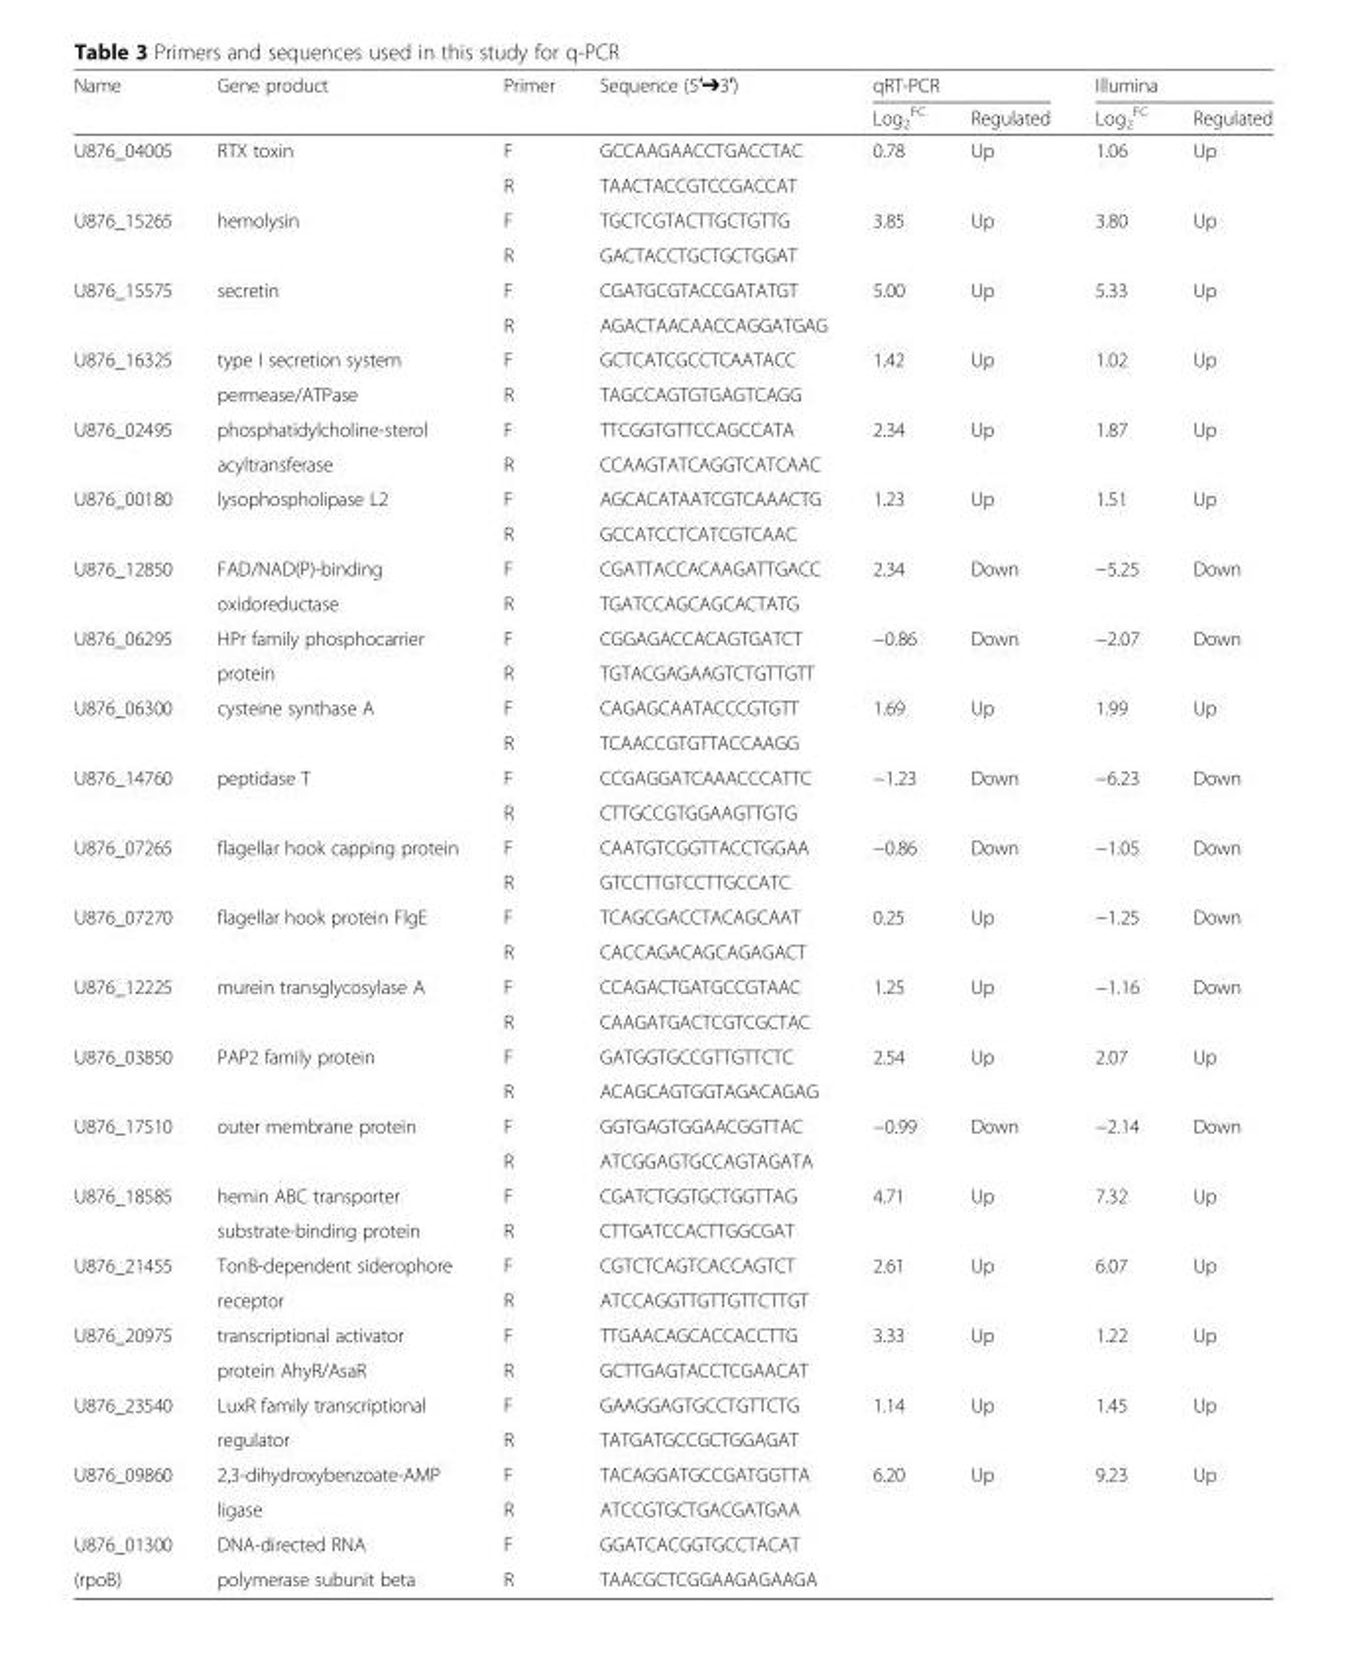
<table><thead><tr><td rowspan="2">Name</td><td rowspan="2">Gene product</td><td rowspan="2">Primer</td><td rowspan="2">Sequence (5′➔3′)</td><td colspan="2">qRT-PCR</td><td colspan="2">Illumina</td></tr><tr><td>Log<sub>2</sub> <sup>FC</sup></td><td>Regulated</td><td>Log<sub>2</sub> <sup>FC</sup></td><td>Regulated</td></tr></thead><tbody><tr><td rowspan="2">U876_04005</td><td rowspan="2">RTX toxin</td><td>F</td><td>GCCAAGAACCTGACCTAC</td><td>0.78</td><td>Up</td><td>1.06</td><td>Up</td></tr><tr><td>R</td><td>TAACTACCGTCCGACCAT</td><td></td><td></td><td></td><td></td></tr><tr><td rowspan="2">U876_15265</td><td rowspan="2">hemolysin</td><td>F</td><td>TGCTCGTACTTGCTGTTG</td><td>3.85</td><td>Up</td><td>3.80</td><td>Up</td></tr><tr><td>R</td><td>GACTACCTGCTGCTGGAT</td><td></td><td></td><td></td><td></td></tr><tr><td rowspan="2">U876_15575</td><td rowspan="2">secretin</td><td>F</td><td>CGATGCGTACCGATATGT</td><td>5.00</td><td>Up</td><td>5.33</td><td>Up</td></tr><tr><td>R</td><td>AGACTAACAACCAGGATGAG</td><td></td><td></td><td></td><td></td></tr><tr><td rowspan="2">U876_16325</td><td>type I secretion system</td><td>F</td><td>GCTCATCGCCTCAATACC</td><td>1.42</td><td>Up</td><td>1.02</td><td>Up</td></tr><tr><td>permease/ATPase</td><td>R</td><td>TAGCCAGTGTGAGTCAGG</td><td></td><td></td><td></td><td></td></tr><tr><td rowspan="2">U876_02495</td><td>phosphatidylcholine-sterol</td><td>F</td><td>TTCGGTGTTCCAGCCATA</td><td>2.34</td><td>Up</td><td>1.87</td><td>Up</td></tr><tr><td>acyltransferase</td><td>R</td><td>CCAAGTATCAGGTCATCAAC</td><td></td><td></td><td></td><td></td></tr><tr><td rowspan="2">U876_00180</td><td rowspan="2">lysophospholipase L2</td><td>F</td><td>AGCACATAATCGTCAAACTG</td><td>1.23</td><td>Up</td><td>1.51</td><td>Up</td></tr><tr><td>R</td><td>GCCATCCTCATCGTCAAC</td><td></td><td></td><td></td><td></td></tr><tr><td rowspan="2">U876_12850</td><td>FAD/NAD(P)-binding</td><td>F</td><td>CGATTACCACAAGATTGACC</td><td>2.34</td><td>Down</td><td>−5.25</td><td>Down</td></tr><tr><td>oxidoreductase</td><td>R</td><td>TGATCCAGCAGCACTATG</td><td></td><td></td><td></td><td></td></tr><tr><td rowspan="2">U876_06295</td><td>HPr family phosphocarrier</td><td>F</td><td>CGGAGACCACAGTGATCT</td><td>−0.86</td><td>Down</td><td>−2.07</td><td>Down</td></tr><tr><td>protein</td><td>R</td><td>TGTACGAGAAGTCTGTTGTT</td><td></td><td></td><td></td><td></td></tr><tr><td rowspan="2">U876_06300</td><td rowspan="2">cysteine synthase A</td><td>F</td><td>CAGAGCAATACCCGTGTT</td><td>1.69</td><td>Up</td><td>1.99</td><td>Up</td></tr><tr><td>R</td><td>TCAACCGTGTTACCAAGG</td><td></td><td></td><td></td><td></td></tr><tr><td rowspan="2">U876_14760</td><td rowspan="2">peptidase T</td><td>F</td><td>CCGAGGATCAAACCCATTC</td><td>−1.23</td><td>Down</td><td>−6.23</td><td>Down</td></tr><tr><td>R</td><td>CTTGCCGTGGAAGTTGTG</td><td></td><td></td><td></td><td></td></tr><tr><td rowspan="2">U876_07265</td><td rowspan="2">flagellar hook capping protein</td><td>F</td><td>CAATGTCGGTTACCTGGAA</td><td>−0.86</td><td>Down</td><td>−1.05</td><td>Down</td></tr><tr><td>R</td><td>GTCCTTGTCCTTGCCATC</td><td></td><td></td><td></td><td></td></tr><tr><td rowspan="2">U876_07270</td><td rowspan="2">flagellar hook protein FlgE</td><td>F</td><td>TCAGCGACCTACAGCAAT</td><td>0.25</td><td>Up</td><td>−1.25</td><td>Down</td></tr><tr><td>R</td><td>CACCAGACAGCAGAGACT</td><td></td><td></td><td></td><td></td></tr><tr><td rowspan="2">U876_12225</td><td rowspan="2">murein transglycosylase A</td><td>F</td><td>CCAGACTGATGCCGTAAC</td><td>1.25</td><td>Up</td><td>−1.16</td><td>Down</td></tr><tr><td>R</td><td>CAAGATGACTCGTCGCTAC</td><td></td><td></td><td></td><td></td></tr><tr><td rowspan="2">U876_03850</td><td rowspan="2">PAP2 family protein</td><td>F</td><td>GATGGTGCCGTTGTTCTC</td><td>2.54</td><td>Up</td><td>2.07</td><td>Up</td></tr><tr><td>R</td><td>ACAGCAGTGGTAGACAGAG</td><td></td><td></td><td></td><td></td></tr><tr><td rowspan="2">U876_17510</td><td rowspan="2">outer membrane protein</td><td>F</td><td>GGTGAGTGGAACGGTTAC</td><td>−0.99</td><td>Down</td><td>−2.14</td><td>Down</td></tr><tr><td>R</td><td>ATCGGAGTGCCAGTAGATA</td><td></td><td></td><td></td><td></td></tr><tr><td rowspan="2">U876_18585</td><td>hemin ABC transporter</td><td>F</td><td>CGATCTGGTGCTGGTTAG</td><td>4.71</td><td>Up</td><td>7.32</td><td>Up</td></tr><tr><td>substrate-binding protein</td><td>R</td><td>CTTGATCCACTTGGCGAT</td><td></td><td></td><td></td><td></td></tr><tr><td rowspan="2">U876_21455</td><td>TonB-dependent siderophore</td><td>F</td><td>CGTCTCAGTCACCAGTCT</td><td>2.61</td><td>Up</td><td>6.07</td><td>Up</td></tr><tr><td>receptor</td><td>R</td><td>ATCCAGGTTGTTGTTCTTGT</td><td></td><td></td><td></td><td></td></tr><tr><td rowspan="2">U876_20975</td><td>transcriptional activator</td><td>F</td><td>TTGAACAGCACCACCTTG</td><td>3.33</td><td>Up</td><td>1.22</td><td>Up</td></tr><tr><td>protein AhyR/AsaR</td><td>R</td><td>GCTTGAGTACCTCGAACAT</td><td></td><td></td><td></td><td></td></tr><tr><td rowspan="2">U876_23540</td><td>LuxR family transcriptional</td><td>F</td><td>GAAGGAGTGCCTGTTCTG</td><td>1.14</td><td>Up</td><td>1.45</td><td>Up</td></tr><tr><td>regulator</td><td>R</td><td>TATGATGCCGCTGGAGAT</td><td></td><td></td><td></td><td></td></tr><tr><td rowspan="2">U876_09860</td><td>2,3-dihydroxybenzoate-AMP</td><td>F</td><td>TACAGGATGCCGATGGTTA</td><td>6.20</td><td>Up</td><td>9.23</td><td>Up</td></tr><tr><td>ligase</td><td>R</td><td>ATCCGTGCTGACGATGAA</td><td></td><td></td><td></td><td></td></tr><tr><td>U876_01300</td><td>DNA-directed RNA</td><td>F</td><td>GGATCACGGTGCCTACAT</td><td></td><td></td><td></td><td></td></tr><tr><td>(rpoB)</td><td>polymerase subunit beta</td><td>R</td><td>TAACGCTCGGAAGAGAAGA</td><td></td><td></td><td></td><td></td></tr></tbody></table>